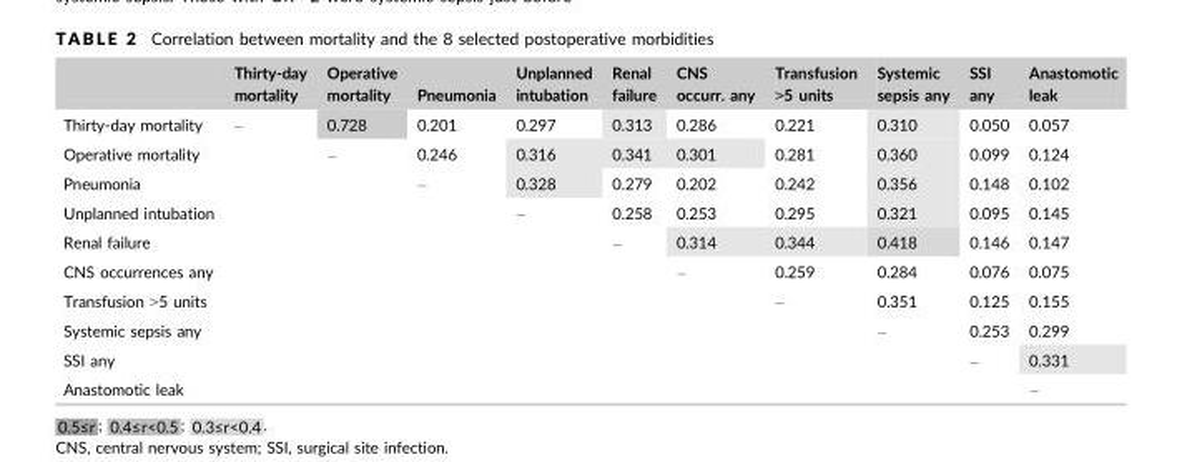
<table><thead><tr><td></td><td>Thirty-day mortality</td><td>Operative mortality</td><td>Pneumonia</td><td>Unplanned intubation</td><td>Renal failure</td><td>CNS occurr. any</td><td>Transfusion &gt;5 units</td><td>Systemic sepsis any</td><td>SSI any</td><td>Anastomotic leak</td></tr></thead><tbody><tr><td>Thirty-day mortality</td><td>–</td><td>0.728</td><td>0.201</td><td>0.297</td><td>0.313</td><td>0.286</td><td>0.221</td><td>0.310</td><td>0.050</td><td>0.057</td></tr><tr><td>Operative mortality</td><td></td><td>–</td><td>0.246</td><td>0.316</td><td>0.341</td><td>0.301</td><td>0.281</td><td>0.360</td><td>0.099</td><td>0.124</td></tr><tr><td>Pneumonia</td><td></td><td></td><td>–</td><td>0.328</td><td>0.279</td><td>0.202</td><td>0.242</td><td>0.356</td><td>0.148</td><td>0.102</td></tr><tr><td>Unplanned intubation</td><td></td><td></td><td></td><td>–</td><td>0.258</td><td>0.253</td><td>0.295</td><td>0.321</td><td>0.095</td><td>0.145</td></tr><tr><td>Renal failure</td><td></td><td></td><td></td><td></td><td>–</td><td>0.314</td><td>0.344</td><td>0.418</td><td>0.146</td><td>0.147</td></tr><tr><td>CNS occurrences any</td><td></td><td></td><td></td><td></td><td></td><td>–</td><td>0.259</td><td>0.284</td><td>0.076</td><td>0.075</td></tr><tr><td>Transfusion &gt;5 units</td><td></td><td></td><td></td><td></td><td></td><td></td><td>–</td><td>0.351</td><td>0.125</td><td>0.155</td></tr><tr><td>Systemic sepsis any</td><td></td><td></td><td></td><td></td><td></td><td></td><td></td><td>–</td><td>0.253</td><td>0.299</td></tr><tr><td>SSI any</td><td></td><td></td><td></td><td></td><td></td><td></td><td></td><td></td><td>–</td><td>0.331</td></tr><tr><td>Anastomotic leak</td><td></td><td></td><td></td><td></td><td></td><td></td><td></td><td></td><td></td><td>–</td></tr></tbody></table>